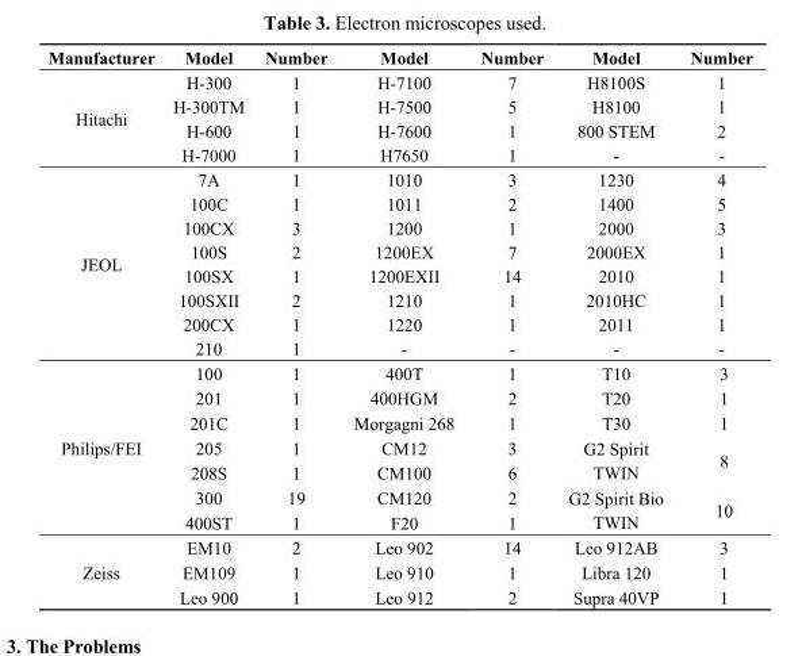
<table><thead><tr><td>Manufacturer</td><td>Model</td><td>Number</td><td>Model</td><td>Number</td><td>Model</td><td>Number</td></tr></thead><tbody><tr><td rowspan="4">Hitachi</td><td>H-300</td><td>1</td><td>H-7100</td><td>7</td><td>H8100S</td><td>1</td></tr><tr><td>H-300TM</td><td>1</td><td>H-7500</td><td>5</td><td>H8100</td><td>1</td></tr><tr><td>H-600</td><td>1</td><td>H-7600</td><td>1</td><td>800 STEM</td><td>2</td></tr><tr><td>H-7000</td><td>1</td><td>H7650</td><td>1</td><td>-</td><td>-</td></tr><tr><td rowspan="8">JEOL</td><td>7A</td><td>1</td><td>1010</td><td>3</td><td>1230</td><td>4</td></tr><tr><td>100C</td><td>1</td><td>1011</td><td>2</td><td>1400</td><td>5</td></tr><tr><td>100CX</td><td>3</td><td>1200</td><td>1</td><td>2000</td><td>3</td></tr><tr><td>100S</td><td>2</td><td>1200EX</td><td>7</td><td>2000EX</td><td>1</td></tr><tr><td>100SX</td><td>1</td><td>1200EXII</td><td>14</td><td>2010</td><td>1</td></tr><tr><td>100SXII</td><td>2</td><td>1210</td><td>1</td><td>2010HC</td><td>1</td></tr><tr><td>200CX</td><td>1</td><td>1220</td><td>1</td><td>2011</td><td>1</td></tr><tr><td>210</td><td>1</td><td>-</td><td>-</td><td>-</td><td>-</td></tr><tr><td rowspan="7">Philips/FEI</td><td>100</td><td>1</td><td>400T</td><td>1</td><td>T10</td><td>3</td></tr><tr><td>201</td><td>1</td><td>400HGM</td><td>2</td><td>T20</td><td>1</td></tr><tr><td>201C</td><td>1</td><td>Morgagni 268</td><td>1</td><td>T30</td><td>1</td></tr><tr><td>205</td><td>1</td><td>CM12</td><td>3</td><td rowspan="2">G2 Spirit TWIN</td><td rowspan="2">8</td></tr><tr><td>208S</td><td>1</td><td>CM100</td><td>6</td></tr><tr><td>300</td><td>19</td><td>CM120</td><td>2</td><td rowspan="2">G2 Spirit Bio TWIN</td><td rowspan="2">10</td></tr><tr><td>400ST</td><td>1</td><td>F20</td><td>1</td></tr><tr><td rowspan="3">Zeiss</td><td>EM10</td><td>2</td><td>Leo 902</td><td>14</td><td>Leo 912AB</td><td>3</td></tr><tr><td>EM109</td><td>1</td><td>Leo 910</td><td>1</td><td>Libra 120</td><td>1</td></tr><tr><td>Leo 900</td><td>1</td><td>Leo 912</td><td>2</td><td>Supra 40VP</td><td>1</td></tr></tbody></table>